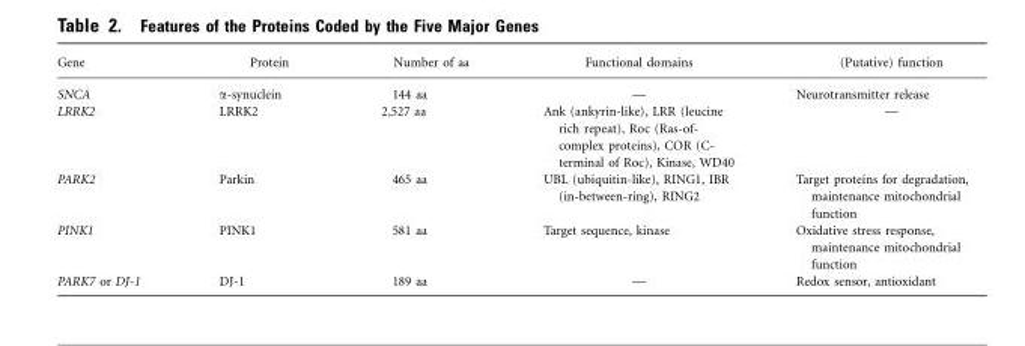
<table><thead><tr><td>Gene</td><td>Protein</td><td>Number of aa</td><td>Functional domains</td><td>(Putative) function</td></tr></thead><tbody><tr><td>SNCA</td><td>α-synuclein</td><td>144 aa</td><td>—</td><td>Neurotransmitter release</td></tr><tr><td>LRRK2</td><td>LRRK2</td><td>2,527 aa</td><td>Ank (ankyrin-like), LRR (leucine rich repeat), Roc (Ras-of- complex proteins), COR (C- terminal of Roc), Kinase, WD40</td><td>—</td></tr><tr><td>PARK2</td><td>Parkin</td><td>465 aa</td><td>UBL (ubiquitin-like), RING1, IBR (in-between-ring), RING2</td><td>Target proteins for degradation, maintenance mitochondrial function</td></tr><tr><td>PINK1</td><td>PINK1</td><td>581 aa</td><td>Target sequence, kinase</td><td>Oxidative stress response, maintenance mitochondrial function</td></tr><tr><td>PARK7 or DJ-1</td><td>DJ-1</td><td>189 aa</td><td>—</td><td>Redox sensor, antioxidant</td></tr></tbody></table>